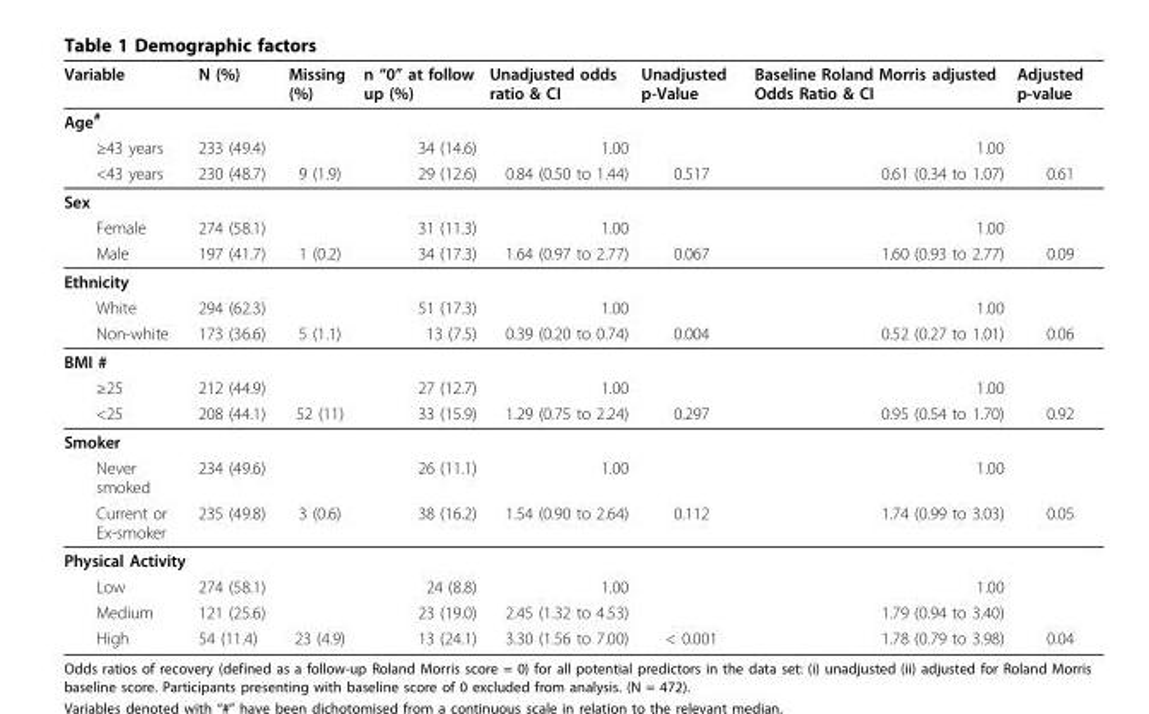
<table><thead><tr><td>Variable</td><td>N (%)</td><td>Missing (%)</td><td>n “0” at follow up (%)</td><td>Unadjusted odds ratio &amp; CI</td><td>Unadjusted p-Value</td><td>Baseline Roland Morris adjusted Odds Ratio &amp; CI</td><td>Adjusted p-value</td></tr></thead><tbody><tr><td colspan="8">Age<sup>#</sup></td></tr><tr><td>≥43 years</td><td>233 (49.4)</td><td></td><td>34 (14.6)</td><td>1.00</td><td></td><td>1.00</td><td></td></tr><tr><td>&lt;43 years</td><td>230 (48.7)</td><td>9 (1.9)</td><td>29 (12.6)</td><td>0.84 (0.50 to 1.44)</td><td>0.517</td><td>0.61 (0.34 to 1.07)</td><td>0.61</td></tr><tr><td colspan="8">Sex</td></tr><tr><td>Female</td><td>274 (58.1)</td><td></td><td>31 (11.3)</td><td>1.00</td><td></td><td>1.00</td><td></td></tr><tr><td>Male</td><td>197 (41.7)</td><td>1 (0.2)</td><td>34 (17.3)</td><td>1.64 (0.97 to 2.77)</td><td>0.067</td><td>1.60 (0.93 to 2.77)</td><td>0.09</td></tr><tr><td colspan="8">Ethnicity</td></tr><tr><td>White</td><td>294 (62.3)</td><td></td><td>51 (17.3)</td><td>1.00</td><td></td><td>1.00</td><td></td></tr><tr><td>Non-white</td><td>173 (36.6)</td><td>5 (1.1)</td><td>13 (7.5)</td><td>0.39 (0.20 to 0.74)</td><td>0.004</td><td>0.52 (0.27 to 1.01)</td><td>0.06</td></tr><tr><td colspan="8">BMI #</td></tr><tr><td>≥25</td><td>212 (44.9)</td><td></td><td>27 (12.7)</td><td>1.00</td><td></td><td>1.00</td><td></td></tr><tr><td>&lt;25</td><td>208 (44.1)</td><td>52 (11)</td><td>33 (15.9)</td><td>1.29 (0.75 to 2.24)</td><td>0.297</td><td>0.95 (0.54 to 1.70)</td><td>0.92</td></tr><tr><td colspan="8">Smoker</td></tr><tr><td>Never smoked</td><td>234 (49.6)</td><td></td><td>26 (11.1)</td><td>1.00</td><td></td><td>1.00</td><td></td></tr><tr><td>Current or Ex-smoker</td><td>235 (49.8)</td><td>3 (0.6)</td><td>38 (16.2)</td><td>1.54 (0.90 to 2.64)</td><td>0.112</td><td>1.74 (0.99 to 3.03)</td><td>0.05</td></tr><tr><td colspan="8">Physical Activity</td></tr><tr><td>Low</td><td>274 (58.1)</td><td></td><td>24 (8.8)</td><td>1.00</td><td></td><td>1.00</td><td></td></tr><tr><td>Medium</td><td>121 (25.6)</td><td></td><td>23 (19.0)</td><td>2.45 (1.32 to 4.53)</td><td></td><td>1.79 (0.94 to 3.40)</td><td></td></tr><tr><td>High</td><td>54 (11.4)</td><td>23 (4.9)</td><td>13 (24.1)</td><td>3.30 (1.56 to 7.00)</td><td>&lt; 0.001</td><td>1.78 (0.79 to 3.98)</td><td>0.04</td></tr></tbody></table>